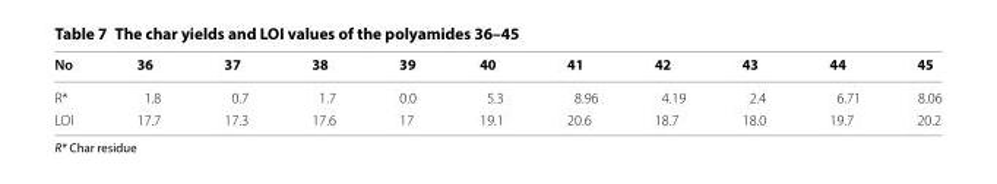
<table><thead><tr><td>No</td><td>36</td><td>37</td><td>38</td><td>39</td><td>40</td><td>41</td><td>42</td><td>43</td><td>44</td><td>45</td></tr></thead><tbody><tr><td>R*</td><td>1.8</td><td>0.7</td><td>1.7</td><td>0.0</td><td>5.3</td><td>8.96</td><td>4.19</td><td>2.4</td><td>6.71</td><td>8.06</td></tr><tr><td>LOI</td><td>17.7</td><td>17.3</td><td>17.6</td><td>17</td><td>19.1</td><td>20.6</td><td>18.7</td><td>18.0</td><td>19.7</td><td>20.2</td></tr></tbody></table>